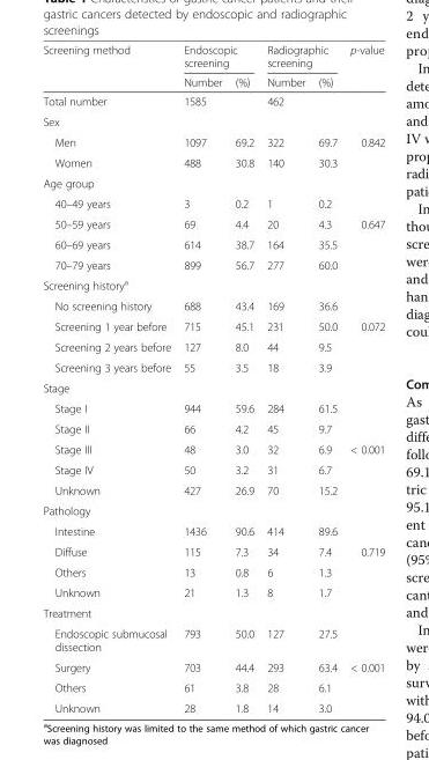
<table><thead><tr><td rowspan="2">Screening method</td><td colspan="2">Endoscopic screening</td><td colspan="2">Radiographic screening</td><td rowspan="2">p-value</td></tr><tr><td>Number</td><td>(%)</td><td>Number</td><td>(%)</td></tr></thead><tbody><tr><td>Total number</td><td>1585</td><td></td><td>462</td><td></td><td></td></tr><tr><td colspan="6">Sex</td></tr><tr><td>Men</td><td>1097</td><td>69.2</td><td>322</td><td>69.7</td><td>0.842</td></tr><tr><td>Women</td><td>488</td><td>30.8</td><td>140</td><td>30.3</td><td></td></tr><tr><td colspan="6">Age group</td></tr><tr><td>40–49 years</td><td>3</td><td>0.2</td><td>1</td><td>0.2</td><td></td></tr><tr><td>50–59 years</td><td>69</td><td>4.4</td><td>20</td><td>4.3</td><td>0.647</td></tr><tr><td>60–69 years</td><td>614</td><td>38.7</td><td>164</td><td>35.5</td><td></td></tr><tr><td>70–79 years</td><td>899</td><td>56.7</td><td>277</td><td>60.0</td><td></td></tr><tr><td colspan="6">Screening history<sup>a</sup></td></tr><tr><td>No screening history</td><td>688</td><td>43.4</td><td>169</td><td>36.6</td><td></td></tr><tr><td>Screening 1 year before</td><td>715</td><td>45.1</td><td>231</td><td>50.0</td><td>0.072</td></tr><tr><td>Screening 2 years before</td><td>127</td><td>8.0</td><td>44</td><td>9.5</td><td></td></tr><tr><td>Screening 3 years before</td><td>55</td><td>3.5</td><td>18</td><td>3.9</td><td></td></tr><tr><td colspan="6">Stage</td></tr><tr><td>Stage I</td><td>944</td><td>59.6</td><td>284</td><td>61.5</td><td></td></tr><tr><td>Stage II</td><td>66</td><td>4.2</td><td>45</td><td>9.7</td><td></td></tr><tr><td>Stage III</td><td>48</td><td>3.0</td><td>32</td><td>6.9</td><td>&lt; 0.001</td></tr><tr><td>Stage IV</td><td>50</td><td>3.2</td><td>31</td><td>6.7</td><td></td></tr><tr><td>Unknown</td><td>427</td><td>26.9</td><td>70</td><td>15.2</td><td></td></tr><tr><td colspan="6">Pathology</td></tr><tr><td>Intestine</td><td>1436</td><td>90.6</td><td>414</td><td>89.6</td><td></td></tr><tr><td>Diffuse</td><td>115</td><td>7.3</td><td>34</td><td>7.4</td><td>0.719</td></tr><tr><td>Others</td><td>13</td><td>0.8</td><td>6</td><td>1.3</td><td></td></tr><tr><td>Unknown</td><td>21</td><td>1.3</td><td>8</td><td>1.7</td><td></td></tr><tr><td colspan="6">Treatment</td></tr><tr><td>Endoscopic submucosal dissection</td><td>793</td><td>50.0</td><td>127</td><td>27.5</td><td></td></tr><tr><td>Surgery</td><td>703</td><td>44.4</td><td>293</td><td>63.4</td><td>&lt; 0.001</td></tr><tr><td>Others</td><td>61</td><td>3.8</td><td>28</td><td>6.1</td><td></td></tr><tr><td>Unknown</td><td>28</td><td>1.8</td><td>14</td><td>3.0</td><td></td></tr></tbody></table>